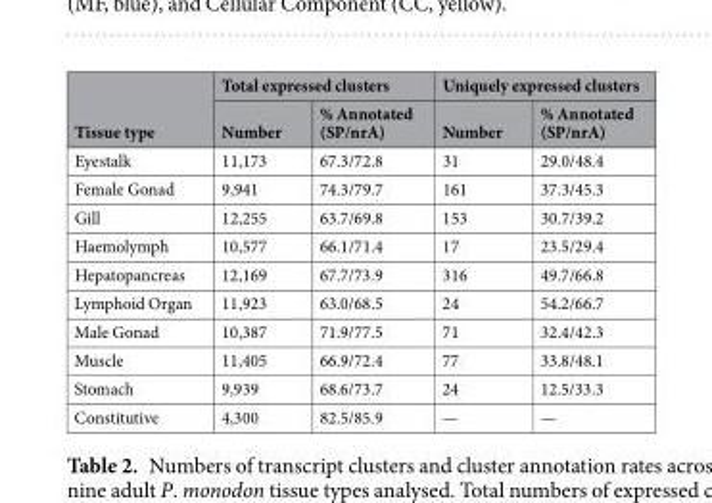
<table><thead><tr><td rowspan="2">Tissue type</td><td colspan="2">Total expressed clusters</td><td colspan="2">Uniquely expressed clusters</td></tr><tr><td>Number</td><td>% Annotated (SP/nrA)</td><td>Number</td><td>% Annotated (SP/nrA)</td></tr></thead><tbody><tr><td>Eyestalk</td><td>11,173</td><td>67.3/72.8</td><td>31</td><td>29.0/48.4</td></tr><tr><td>Female Gonad</td><td>9,941</td><td>74.3/79.7</td><td>161</td><td>37.3/45.3</td></tr><tr><td>Gill</td><td>12,255</td><td>63.7/69.8</td><td>153</td><td>30.7/39.2</td></tr><tr><td>Haemolymph</td><td>10,577</td><td>66.1/71.4</td><td>17</td><td>23.5/29.4</td></tr><tr><td>Hepatopancreas</td><td>12,169</td><td>67.7/73.9</td><td>316</td><td>49.7/66.8</td></tr><tr><td>Lymphoid Organ</td><td>11,923</td><td>63.0/68.5</td><td>24</td><td>54.2/66.7</td></tr><tr><td>Male Gonad</td><td>10,387</td><td>71.9/77.5</td><td>71</td><td>32.4/42.3</td></tr><tr><td>Muscle</td><td>11,405</td><td>66.9/72.4</td><td>77</td><td>33.8/48.1</td></tr><tr><td>Stomach</td><td>9,939</td><td>68.6/73.7</td><td>24</td><td>12.5/33.3</td></tr><tr><td>Constitutive</td><td>4,300</td><td>82.5/85.9</td><td>—</td><td>—</td></tr></tbody></table>